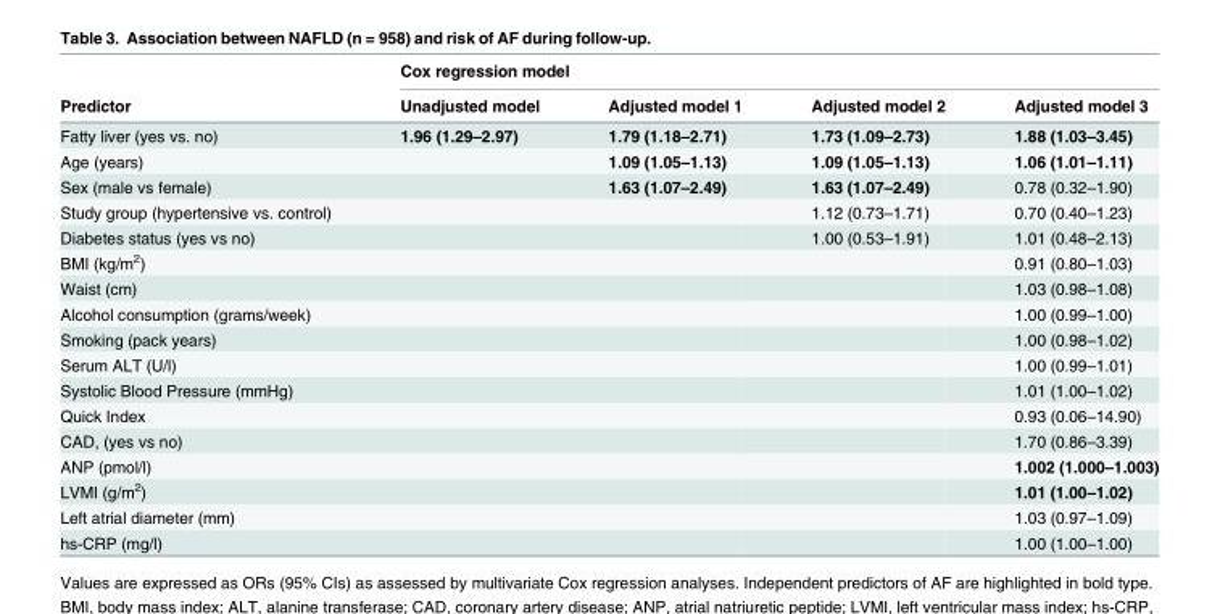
<table><thead><tr><td rowspan="2">Predictor</td><td colspan="4">Cox regression model</td></tr><tr><td>Unadjusted model</td><td>Adjusted model 1</td><td>Adjusted model 2</td><td>Adjusted model 3</td></tr></thead><tbody><tr><td>Fatty liver (yes vs. no)</td><td>1.96 (1.29–2.97)</td><td>1.79 (1.18–2.71)</td><td>1.73 (1.09–2.73)</td><td>1.88 (1.03–3.45)</td></tr><tr><td>Age (years)</td><td></td><td>1.09 (1.05–1.13)</td><td>1.09 (1.05–1.13)</td><td>1.06 (1.01–1.11)</td></tr><tr><td>Sex (male vs female)</td><td></td><td>1.63 (1.07–2.49)</td><td>1.63 (1.07–2.49)</td><td>0.78 (0.32–1.90)</td></tr><tr><td>Study group (hypertensive vs. control)</td><td></td><td></td><td>1.12 (0.73–1.71)</td><td>0.70 (0.40–1.23)</td></tr><tr><td>Diabetes status (yes vs no)</td><td></td><td></td><td>1.00 (0.53–1.91)</td><td>1.01 (0.48–2.13)</td></tr><tr><td>BMI (kg/m<sup>2</sup>)</td><td></td><td></td><td></td><td>0.91 (0.80–1.03)</td></tr><tr><td>Waist (cm)</td><td></td><td></td><td></td><td>1.03 (0.98–1.08)</td></tr><tr><td>Alcohol consumption (grams/week)</td><td></td><td></td><td></td><td>1.00 (0.99–1.00)</td></tr><tr><td>Smoking (pack years)</td><td></td><td></td><td></td><td>1.00 (0.98–1.02)</td></tr><tr><td>Serum ALT (U/l)</td><td></td><td></td><td></td><td>1.00 (0.99–1.01)</td></tr><tr><td>Systolic Blood Pressure (mmHg)</td><td></td><td></td><td></td><td>1.01 (1.00–1.02)</td></tr><tr><td>Quick Index</td><td></td><td></td><td></td><td>0.93 (0.06–14.90)</td></tr><tr><td>CAD, (yes vs no)</td><td></td><td></td><td></td><td>1.70 (0.86–3.39)</td></tr><tr><td>ANP (pmol/l)</td><td></td><td></td><td></td><td>1.002 (1.000–1.003)</td></tr><tr><td>LVMI (g/m<sup>2</sup>)</td><td></td><td></td><td></td><td>1.01 (1.00–1.02)</td></tr><tr><td>Left atrial diameter (mm)</td><td></td><td></td><td></td><td>1.03 (0.97–1.09)</td></tr><tr><td>hs-CRP (mg/l)</td><td></td><td></td><td></td><td>1.00 (1.00–1.00)</td></tr></tbody></table>